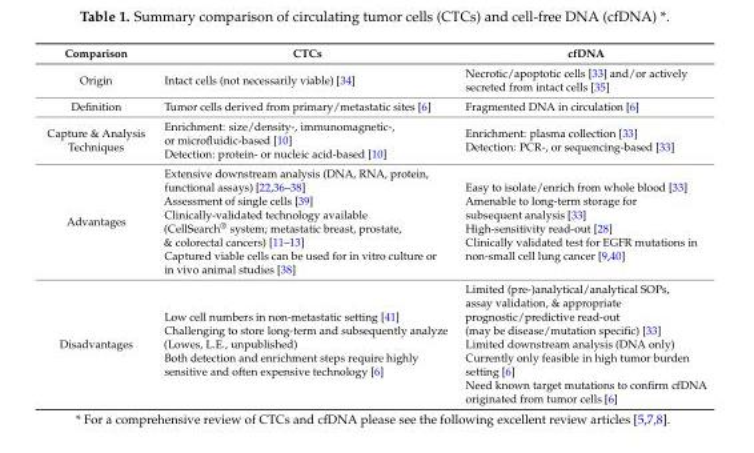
<table><thead><tr><td>Comparison</td><td>CTCs</td><td>cfDNA</td></tr></thead><tbody><tr><td>Origin</td><td>Intact cells (not necessarily viable) [34]</td><td>Necrotic/apoptotic cells [33] and/or actively secreted from intact cells [35]</td></tr><tr><td>Definition</td><td>Tumor cells derived from primary/metastatic sites [6]</td><td>Fragmented DNA in circulation [6]</td></tr><tr><td>Capture &amp; Analysis Techniques</td><td>Enrichment: size/density-, immunomagnetic-, or microfluidic-based [10] Detection: protein- or nucleic acid-based [10]</td><td>Enrichment: plasma collection [33] Detection: PCR-, or sequencing-based [33]</td></tr><tr><td>Advantages</td><td>Extensive downstream analysis (DNA, RNA, protein, functional assays) [22,36–38] Assessment of single cells [39] Clinically-validated technology available (CellSearch® system; metastatic breast, prostate, &amp; colorectal cancers) [11–13] Captured viable cells can be used for in vitro culture or in vivo animal studies [38]</td><td>Easy to isolate/enrich from whole blood [33] Amenable to long-term storage for subsequent analysis [33] High-sensitivity read-out [28] Clinically validated test for EGFR mutations in non-small cell lung cancer [9,40]</td></tr><tr><td>Disadvantages</td><td>Low cell numbers in non-metastatic setting [41] Challenging to store long-term and subsequently analyze (Lowes, L.E., unpublished) Both detection and enrichment steps require highly sensitive and often expensive technology [6]</td><td>Limited (pre-)analytical/analytical SOPs, assay validation, &amp; appropriate prognostic/predictive read-out (may be disease/mutation specific) [33] Limited downstream analysis (DNA only) Currently only feasible in high tumor burden setting [6] Need known target mutations to confirm cfDNA originated from tumor cells [6]</td></tr></tbody></table>